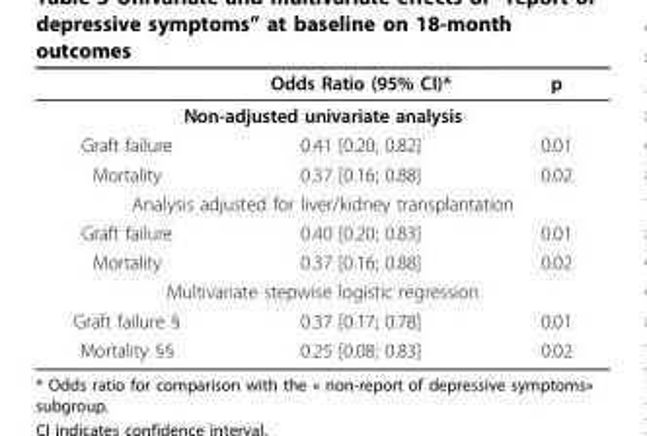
<table><thead><tr><td></td><td>Odds Ratio (95% CI)*</td><td>p</td></tr></thead><tbody><tr><td colspan="3">Non-adjusted univariate analysis</td></tr><tr><td>Graft failure</td><td>0.41 [0.20; 0.82]</td><td>0.01</td></tr><tr><td>Mortality</td><td>0.37 [0.16; 0.88]</td><td>0.02</td></tr><tr><td colspan="3">Analysis adjusted for liver/kidney transplantation</td></tr><tr><td>Graft failure</td><td>0.40 [0.20; 0.83]</td><td>0.01</td></tr><tr><td>Mortality</td><td>0.37 [0.16; 0.88]</td><td>0.02</td></tr><tr><td colspan="3">Multivariate stepwise logistic regression</td></tr><tr><td>Graft failure §</td><td>0.37 [0.17; 0.78]</td><td>0.01</td></tr><tr><td>Mortality §§</td><td>0.25 [0.08; 0.83]</td><td>0.02</td></tr></tbody></table>